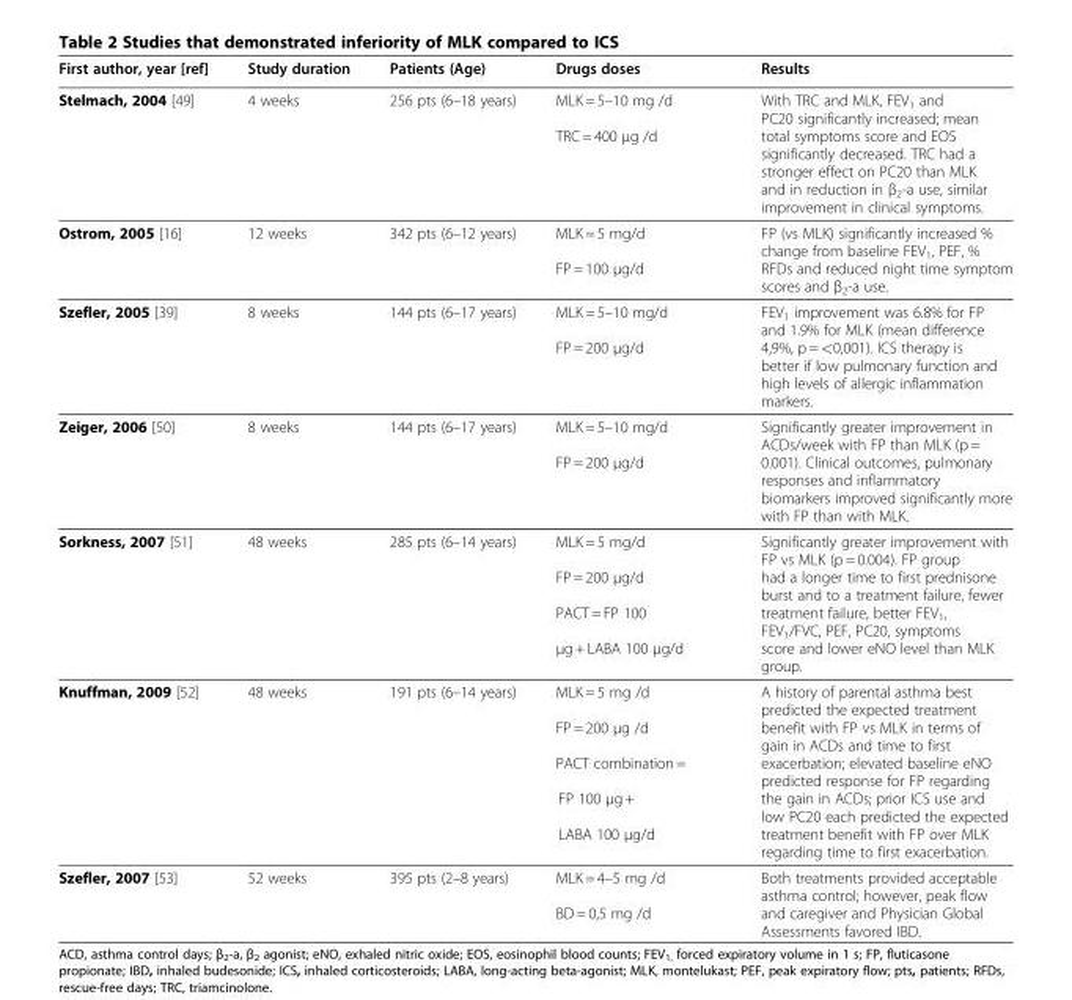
<table><thead><tr><td>First author, year [ref]</td><td>Study duration</td><td>Patients (Age)</td><td>Drugs doses</td><td>Results</td></tr></thead><tbody><tr><td>Stelmach, 2004 [49]</td><td>4 weeks</td><td>256 pts (6–18 years)</td><td>MLK = 5–10 mg /d TRC = 400 μg /d</td><td>With TRC and MLK, FEV<sub>1</sub> and PC20 significantly increased; mean total symptoms score and EOS significantly decreased. TRC had a stronger effect on PC20 than MLK and in reduction in β<sub>2</sub>-a use, similar improvement in clinical symptoms.</td></tr><tr><td>Ostrom, 2005 [16]</td><td>12 weeks</td><td>342 pts (6–12 years)</td><td>MLK = 5 mg/d FP = 100 μg/d</td><td>FP (vs MLK) significantly increased % change from baseline FEV<sub>1</sub>, PEF, % RFDs and reduced night time symptom scores and β<sub>2</sub>-a use.</td></tr><tr><td>Szefler, 2005 [39]</td><td>8 weeks</td><td>144 pts (6–17 years)</td><td>MLK = 5–10 mg/d FP = 200 μg/d</td><td>FEV<sub>1</sub> improvement was 6.8% for FP and 1.9% for MLK (mean difference 4,9%, p = &lt;0,001). ICS therapy is better if low pulmonary function and high levels of allergic inflammation markers.</td></tr><tr><td>Zeiger, 2006 [50]</td><td>8 weeks</td><td>144 pts (6–17 years)</td><td>MLK = 5–10 mg/d FP = 200 μg/d</td><td>Significantly greater improvement in ACDs/week with FP than MLK (p = 0.001). Clinical outcomes, pulmonary responses and inflammatory biomarkers improved significantly more with FP than with MLK.</td></tr><tr><td>Sorkness, 2007 [51]</td><td>48 weeks</td><td>285 pts (6–14 years)</td><td>MLK = 5 mg/d FP = 200 μg/d PACT = FP 100 μg + LABA 100 μg/d</td><td>Significantly greater improvement with FP vs MLK (p = 0.004). FP group had a longer time to first prednisone burst and to a treatment failure, fewer treatment failure, better FEV<sub>1</sub>, FEV<sub>1</sub>/FVC, PEF, PC20, symptoms score and lower eNO level than MLK group.</td></tr><tr><td>Knuffman, 2009 [52]</td><td>48 weeks</td><td>191 pts (6–14 years)</td><td>MLK = 5 mg /d FP = 200 μg /d PACT combination = FP 100 μg + LABA 100 μg/d</td><td>A history of parental asthma best predicted the expected treatment benefit with FP vs MLK in terms of gain in ACDs and time to first exacerbation; elevated baseline eNO predicted response for FP regarding the gain in ACDs; prior ICS use and low PC20 each predicted the expected treatment benefit with FP over MLK regarding time to first exacerbation.</td></tr><tr><td>Szefler, 2007 [53]</td><td>52 weeks</td><td>395 pts (2–8 years)</td><td>MLK = 4–5 mg /d BD = 0,5 mg /d</td><td>Both treatments provided acceptable asthma control; however, peak flow and caregiver and Physician Global Assessments favored IBD.</td></tr></tbody></table>